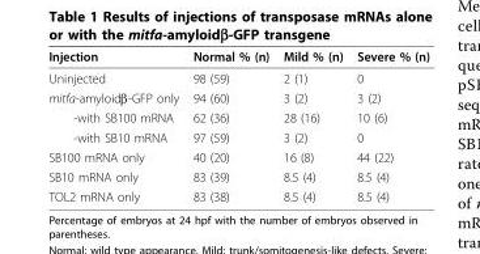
<table><thead><tr><td>Injection</td><td>Normal % (n)</td><td>Mild % (n)</td><td>Severe % (n)</td></tr></thead><tbody><tr><td>Uninjected</td><td>98 (59)</td><td>2 (1)</td><td>0</td></tr><tr><td>mitfa-amyloidβ-GFP only</td><td>94 (60)</td><td>3 (2)</td><td>3 (2)</td></tr><tr><td>-with SB100 mRNA</td><td>62 (36)</td><td>28 (16)</td><td>10 (6)</td></tr><tr><td>-with SB10 mRNA</td><td>97 (59)</td><td>3 (2)</td><td>0</td></tr><tr><td>SB100 mRNA only</td><td>40 (20)</td><td>16 (8)</td><td>44 (22)</td></tr><tr><td>SB10 mRNA only</td><td>83 (39)</td><td>8.5 (4)</td><td>8.5 (4)</td></tr><tr><td>TOL2 mRNA only</td><td>83 (38)</td><td>8.5 (4)</td><td>8.5 (4)</td></tr></tbody></table>